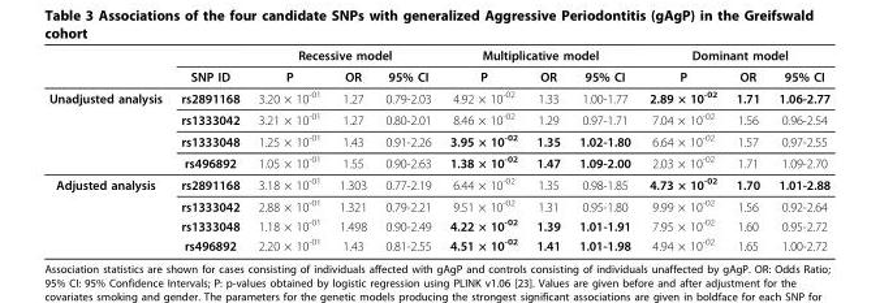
<table><thead><tr><td rowspan="2"></td><td rowspan="2">SNP ID</td><td colspan="3">Recessive model</td><td colspan="3">Multiplicative model</td><td colspan="3">Dominant model</td></tr><tr><td>P</td><td>OR</td><td>95% CI</td><td>P</td><td>OR</td><td>95% CI</td><td>P</td><td>OR</td><td>95% CI</td></tr></thead><tbody><tr><td rowspan="4">Unadjusted analysis</td><td>rs2891168</td><td>3.20 × 10<sup>-01</sup></td><td>1.27</td><td>0.79-2.03</td><td>4.92 × 10<sup>-02</sup></td><td>1.33</td><td>1.00-1.77</td><td>2.89 × 10<sup>-02</sup></td><td>1.71</td><td>1.06-2.77</td></tr><tr><td>rs1333042</td><td>3.21 × 10<sup>-01</sup></td><td>1.27</td><td>0.80-2.01</td><td>8.46 × 10<sup>-02</sup></td><td>1.29</td><td>0.97-1.71</td><td>7.04 × 10<sup>-02</sup></td><td>1.56</td><td>0.96-2.54</td></tr><tr><td>rs1333048</td><td>1.25 × 10<sup>-01</sup></td><td>1.43</td><td>0.91-2.26</td><td>3.95 × 10<sup>-02</sup></td><td>1.35</td><td>1.02-1.80</td><td>6.64 × 10<sup>-02</sup></td><td>1.57</td><td>0.97-2.55</td></tr><tr><td>rs496892</td><td>1.05 × 10<sup>-01</sup></td><td>1.55</td><td>0.90-2.63</td><td>1.38 × 10<sup>-02</sup></td><td>1.47</td><td>1.09-2.00</td><td>2.03 × 10<sup>-02</sup></td><td>1.71</td><td>1.09-2.70</td></tr><tr><td rowspan="4">Adjusted analysis</td><td>rs2891168</td><td>3.18 × 10<sup>-01</sup></td><td>1.303</td><td>0.77-2.19</td><td>6.44 × 10<sup>-02</sup></td><td>1.35</td><td>0.98-1.85</td><td>4.73 × 10<sup>-02</sup></td><td>1.70</td><td>1.01-2.88</td></tr><tr><td>rs1333042</td><td>2.88 × 10<sup>-01</sup></td><td>1.321</td><td>0.79-2.21</td><td>9.51 × 10<sup>-02</sup></td><td>1.31</td><td>0.95-1.80</td><td>9.99 × 10<sup>-02</sup></td><td>1.56</td><td>0.92-2.64</td></tr><tr><td>rs1333048</td><td>1.18 × 10<sup>-01</sup></td><td>1.498</td><td>0.90-2.49</td><td>4.22 × 10<sup>-02</sup></td><td>1.39</td><td>1.01-1.91</td><td>7.95 × 10<sup>-02</sup></td><td>1.60</td><td>0.95-2.72</td></tr><tr><td>rs496892</td><td>2.20 × 10<sup>-01</sup></td><td>1.43</td><td>0.81-2.55</td><td>4.51 × 10<sup>-02</sup></td><td>1.41</td><td>1.01-1.98</td><td>4.94 × 10<sup>-02</sup></td><td>1.65</td><td>1.00-2.72</td></tr></tbody></table>